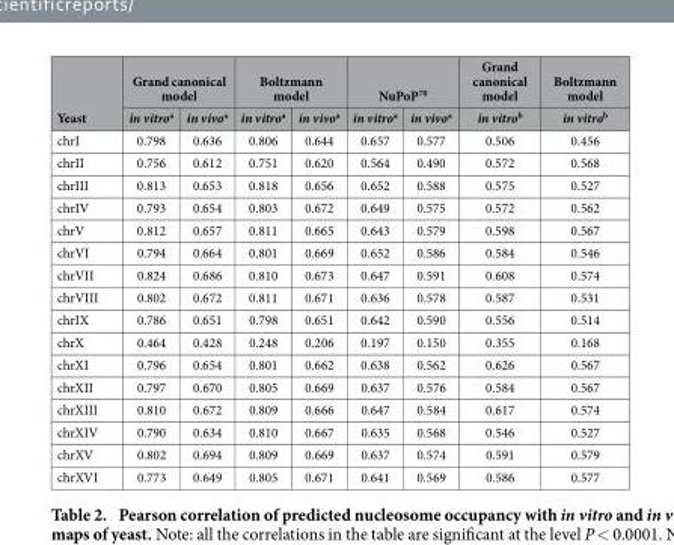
<table><thead><tr><td rowspan="2">Yeast</td><td colspan="2">Grand canonical model</td><td colspan="2">Boltzmann model</td><td colspan="2">NuPoP<sup>70</sup></td><td rowspan="2">Grand canonical model in vitro<sup>b</sup></td><td rowspan="2">Boltzmann model in vitro<sup>b</sup></td></tr><tr><td>in vitro<sup>a</sup></td><td>in vivo<sup>a</sup></td><td>in vitro<sup>a</sup></td><td>in vivo<sup>a</sup></td><td>in vitro<sup>a</sup></td><td>in vivo<sup>a</sup></td></tr></thead><tbody><tr><td>chrI</td><td>0.798</td><td>0.636</td><td>0.806</td><td>0.644</td><td>0.657</td><td>0.577</td><td>0.506</td><td>0.456</td></tr><tr><td>chrII</td><td>0.756</td><td>0.612</td><td>0.751</td><td>0.620</td><td>0.564</td><td>0.490</td><td>0.572</td><td>0.568</td></tr><tr><td>chrIII</td><td>0.813</td><td>0.653</td><td>0.818</td><td>0.656</td><td>0.652</td><td>0.588</td><td>0.575</td><td>0.527</td></tr><tr><td>chrIV</td><td>0.793</td><td>0.654</td><td>0.803</td><td>0.672</td><td>0.649</td><td>0.575</td><td>0.572</td><td>0.562</td></tr><tr><td>chrV</td><td>0.812</td><td>0.657</td><td>0.811</td><td>0.665</td><td>0.643</td><td>0.579</td><td>0.598</td><td>0.567</td></tr><tr><td>chrVI</td><td>0.794</td><td>0.664</td><td>0.801</td><td>0.669</td><td>0.652</td><td>0.586</td><td>0.584</td><td>0.546</td></tr><tr><td>chrVII</td><td>0.824</td><td>0.686</td><td>0.810</td><td>0.673</td><td>0.647</td><td>0.591</td><td>0.608</td><td>0.574</td></tr><tr><td>chrVIII</td><td>0.802</td><td>0.672</td><td>0.811</td><td>0.671</td><td>0.636</td><td>0.578</td><td>0.587</td><td>0.531</td></tr><tr><td>chrIX</td><td>0.786</td><td>0.651</td><td>0.798</td><td>0.651</td><td>0.642</td><td>0.590</td><td>0.556</td><td>0.514</td></tr><tr><td>chrX</td><td>0.464</td><td>0.428</td><td>0.248</td><td>0.206</td><td>0.197</td><td>0.150</td><td>0.355</td><td>0.168</td></tr><tr><td>chrXI</td><td>0.796</td><td>0.654</td><td>0.801</td><td>0.662</td><td>0.638</td><td>0.562</td><td>0.626</td><td>0.567</td></tr><tr><td>chrXII</td><td>0.797</td><td>0.670</td><td>0.805</td><td>0.669</td><td>0.637</td><td>0.576</td><td>0.584</td><td>0.567</td></tr><tr><td>chrXIII</td><td>0.810</td><td>0.672</td><td>0.809</td><td>0.666</td><td>0.647</td><td>0.584</td><td>0.617</td><td>0.574</td></tr><tr><td>chrXIV</td><td>0.790</td><td>0.634</td><td>0.810</td><td>0.667</td><td>0.635</td><td>0.568</td><td>0.546</td><td>0.527</td></tr><tr><td>chrXV</td><td>0.802</td><td>0.694</td><td>0.809</td><td>0.669</td><td>0.637</td><td>0.574</td><td>0.591</td><td>0.579</td></tr><tr><td>chrXVI</td><td>0.773</td><td>0.649</td><td>0.805</td><td>0.671</td><td>0.641</td><td>0.569</td><td>0.586</td><td>0.577</td></tr></tbody></table>